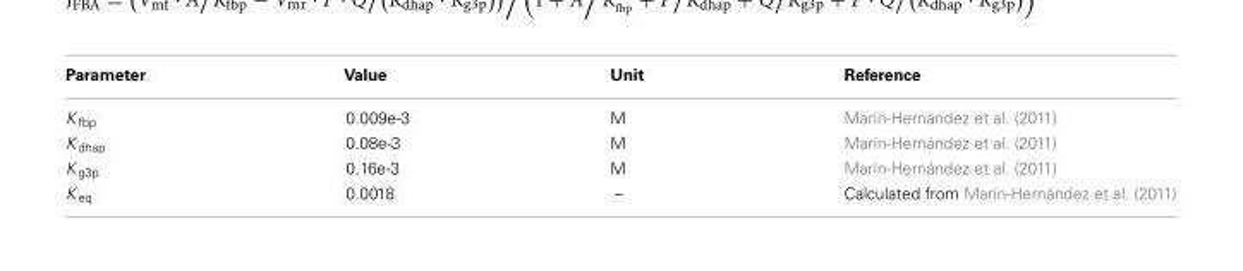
<table><thead><tr><td>Parameter</td><td>Value</td><td>Unit</td><td>Reference</td></tr></thead><tbody><tr><td>K <sub>fbp</sub></td><td>0.009e-3</td><td>M</td><td>Marín-Hernández et al. (2011)</td></tr><tr><td>K <sub>dhap</sub></td><td>0.08e-3</td><td>M</td><td>Marín-Hernández et al. (2011)</td></tr><tr><td>K <sub>g3p</sub></td><td>0.16e-3</td><td>M</td><td>Marín-Hernández et al. (2011)</td></tr><tr><td>K <sub>eq</sub></td><td>0.0018</td><td>–</td><td>Calculated from Marín-Hernández et al. (2011)</td></tr></tbody></table>